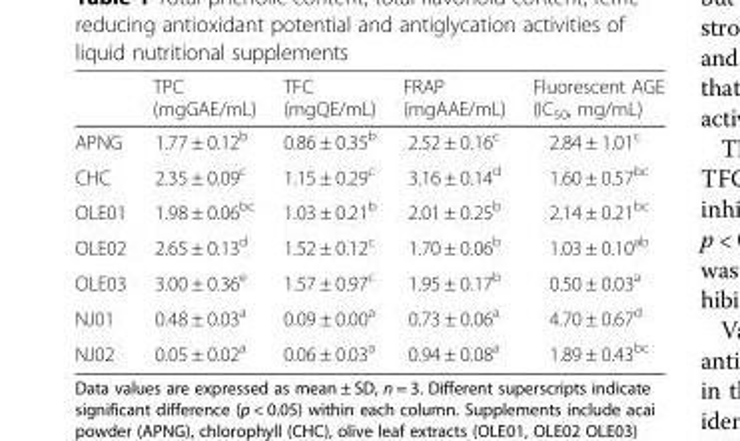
<table><thead><tr><td></td><td>TPC (mgGAE/mL)</td><td>TFC (mgQE/mL)</td><td>FRAP (mgAAE/mL)</td><td>Fluorescent AGE (IC<sub>50</sub>, mg/mL)</td></tr></thead><tbody><tr><td>APNG</td><td>1.77 ± 0.12<sup>b</sup></td><td>0.86 ± 0.35<sup>b</sup></td><td>2.52 ± 0.16<sup>c</sup></td><td>2.84 ± 1.01<sup>c</sup></td></tr><tr><td>CHC</td><td>2.35 ± 0.09<sup>c</sup></td><td>1.15 ± 0.29<sup>c</sup></td><td>3.16 ± 0.14<sup>d</sup></td><td>1.60 ± 0.57<sup>bc</sup></td></tr><tr><td>OLE01</td><td>1.98 ± 0.06<sup>bc</sup></td><td>1.03 ± 0.21<sup>b</sup></td><td>2.01 ± 0.25<sup>b</sup></td><td>2.14 ± 0.21<sup>bc</sup></td></tr><tr><td>OLE02</td><td>2.65 ± 0.13<sup>d</sup></td><td>1.52 ± 0.12<sup>c</sup></td><td>1.70 ± 0.06<sup>b</sup></td><td>1.03 ± 0.10<sup>ab</sup></td></tr><tr><td>OLE03</td><td>3.00 ± 0.36<sup>e</sup></td><td>1.57 ± 0.97<sup>c</sup></td><td>1.95 ± 0.17<sup>b</sup></td><td>0.50 ± 0.03<sup>a</sup></td></tr><tr><td>NJ01</td><td>0.48 ± 0.03<sup>a</sup></td><td>0.09 ± 0.00<sup>a</sup></td><td>0.73 ± 0.06<sup>a</sup></td><td>4.70 ± 0.67<sup>d</sup></td></tr><tr><td>NJ02</td><td>0.05 ± 0.02<sup>a</sup></td><td>0.06 ± 0.03<sup>a</sup></td><td>0.94 ± 0.08<sup>a</sup></td><td>1.89 ± 0.43<sup>bc</sup></td></tr></tbody></table>